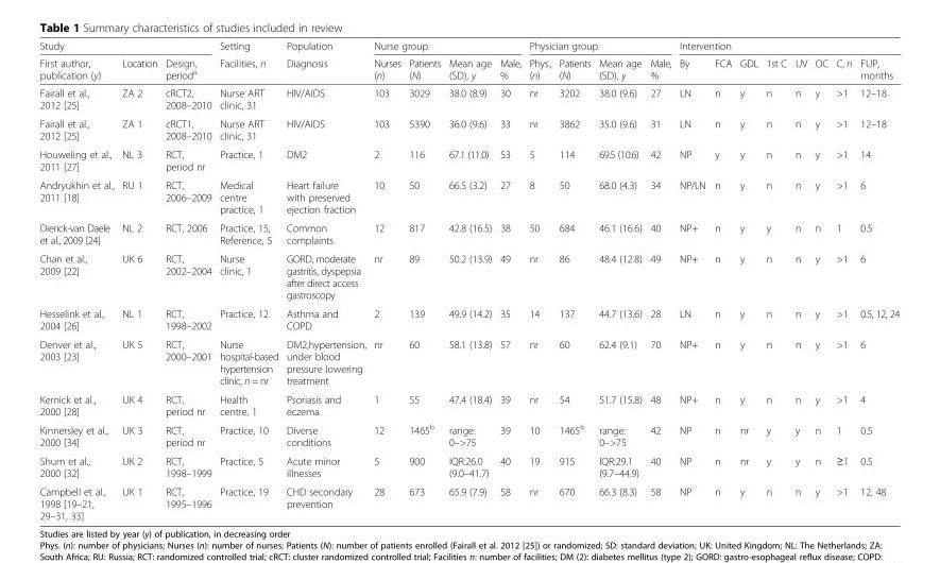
<table><thead><tr><td colspan="3">Study</td><td rowspan="2">Setting Facilities, n</td><td rowspan="2">Population Diagnosis</td><td colspan="4">Nurse group</td><td colspan="4">Physician group</td><td colspan="8">Intervention</td></tr><tr><td>First author, publication (y)</td><td>Location</td><td>Design, period<sup>a</sup></td><td>Nurses (n)</td><td>Patients (N)</td><td>Mean age (SD), y</td><td>Male, %</td><td>Phys., (n)</td><td>Patients (N)</td><td>Mean age (SD), y</td><td>Male, %</td><td>By</td><td>FCA</td><td>GDL</td><td>1st C</td><td>UV</td><td>OC</td><td>C, n</td><td>FUP, months</td></tr></thead><tbody><tr><td>Fairall et al., 2012 [25]</td><td>ZA 2</td><td>cRCT2, 2008–2010</td><td>Nurse ART clinic, 31</td><td>HIV/AIDS</td><td>103</td><td>3029</td><td>38.0 (8.9)</td><td>30</td><td>nr</td><td>3202</td><td>38.0 (9.6)</td><td>27</td><td>LN</td><td>n</td><td>y</td><td>n</td><td>n</td><td>y</td><td>&gt;1</td><td>12–18</td></tr><tr><td>Fairall et al., 2012 [25]</td><td>ZA 1</td><td>cRCT1, 2008–2010</td><td>Nurse ART clinic, 31</td><td>HIV/AIDS</td><td>103</td><td>5390</td><td>36.0 (9.6)</td><td>33</td><td>nr</td><td>3862</td><td>35.0 (9.6)</td><td>31</td><td>LN</td><td>n</td><td>y</td><td>n</td><td>n</td><td>y</td><td>&gt;1</td><td>12–18</td></tr><tr><td>Houweling et al., 2011 [27]</td><td>NL 3</td><td>RCT, period nr</td><td>Practice, 1</td><td>DM2</td><td>2</td><td>116</td><td>67.1 (11.0)</td><td>53</td><td>5</td><td>114</td><td>69.5 (10.6)</td><td>42</td><td>NP</td><td>y</td><td>y</td><td>n</td><td>n</td><td>y</td><td>&gt;1</td><td>14</td></tr><tr><td>Andryukhin et al., 2011 [18]</td><td>RU 1</td><td>RCT, 2006–2009</td><td>Medical centre practice, 1</td><td>Heart failure with preserved ejection fraction</td><td>10</td><td>50</td><td>66.5 (3.2)</td><td>27</td><td>8</td><td>50</td><td>68.0 (4.3)</td><td>34</td><td>NP/LN</td><td>n</td><td>y</td><td>n</td><td>n</td><td>y</td><td>&gt;1</td><td>6</td></tr><tr><td>Dierick-van Daele et al., 2009 [24]</td><td>NL 2</td><td>RCT, 2006</td><td>Practice, 15, Reference, 5</td><td>Common complaints</td><td>12</td><td>817</td><td>42.8 (16.5)</td><td>38</td><td>50</td><td>684</td><td>46.1 (16.6)</td><td>40</td><td>NP+</td><td>n</td><td>y</td><td>y</td><td>n</td><td>n</td><td>1</td><td>0.5</td></tr><tr><td>Chan et al., 2009 [22]</td><td>UK 6</td><td>RCT, 2002–2004</td><td>Nurse clinic, 1</td><td>GORD, moderate gastritis, dyspepsia after direct access gastroscopy</td><td>nr</td><td>89</td><td>50.2 (13.9)</td><td>49</td><td>nr</td><td>86</td><td>48.4 (12.8)</td><td>49</td><td>NP+</td><td>n</td><td>y</td><td>n</td><td>n</td><td>y</td><td>&gt;1</td><td>6</td></tr><tr><td>Hesselink et al., 2004 [26]</td><td>NL 1</td><td>RCT, 1998–2002</td><td>Practice, 12</td><td>Asthma and COPD</td><td>2</td><td>139</td><td>49.9 (14.2)</td><td>35</td><td>14</td><td>137</td><td>44.7 (13.6)</td><td>28</td><td>LN</td><td>n</td><td>y</td><td>n</td><td>n</td><td>y</td><td>&gt;1</td><td>0.5, 12, 24</td></tr><tr><td>Denver et al., 2003 [23]</td><td>UK 5</td><td>RCT, 2000–2001</td><td>Nurse hospital-based hypertension clinic, n = nr</td><td>DM2,hypertension, under blood pressure lowering treatment</td><td>nr</td><td>60</td><td>58.1 (13.8)</td><td>57</td><td>nr</td><td>60</td><td>62.4 (9.1)</td><td>70</td><td>NP+</td><td>n</td><td>y</td><td>n</td><td>n</td><td>y</td><td>&gt;1</td><td>6</td></tr><tr><td>Kernick et al., 2000 [28]</td><td>UK 4</td><td>RCT, period nr</td><td>Health centre, 1</td><td>Psoriasis and eczema</td><td>1</td><td>55</td><td>47.4 (18.4)</td><td>39</td><td>nr</td><td>54</td><td>51.7 (15.8)</td><td>48</td><td>NP+</td><td>n</td><td>y</td><td>n</td><td>n</td><td>y</td><td>&gt;1</td><td>4</td></tr><tr><td>Kinnersley et al., 2000 [34]</td><td>UK 3</td><td>RCT, period nr</td><td>Practice, 10</td><td>Diverse conditions</td><td>12</td><td>1465<sup>b</sup></td><td>range: 0–&gt;75</td><td>39</td><td>10</td><td>1465<sup>b</sup></td><td>range: 0–&gt;75</td><td>42</td><td>NP</td><td>n</td><td>nr</td><td>y</td><td>y</td><td>n</td><td>1</td><td>0.5</td></tr><tr><td>Shum et al., 2000 [32]</td><td>UK 2</td><td>RCT, 1998–1999</td><td>Practice, 5</td><td>Acute minor illnesses</td><td>5</td><td>900</td><td>IQR:26.0 (9.0–41.7)</td><td>40</td><td>19</td><td>915</td><td>IQR:29.1 (9.7–44.9)</td><td>40</td><td>NP</td><td>n</td><td>nr</td><td>y</td><td>y</td><td>n</td><td>≥1</td><td>0.5</td></tr><tr><td>Campbell et al., 1998 [19–21, 29–31, 33]</td><td>UK 1</td><td>RCT, 1995–1996</td><td>Practice, 19</td><td>CHD secondary prevention</td><td>28</td><td>673</td><td>65.9 (7.9)</td><td>58</td><td>nr</td><td>670</td><td>66.3 (8.3)</td><td>58</td><td>NP</td><td>n</td><td>y</td><td>n</td><td>n</td><td>y</td><td>&gt;1</td><td>12, 48</td></tr></tbody></table>